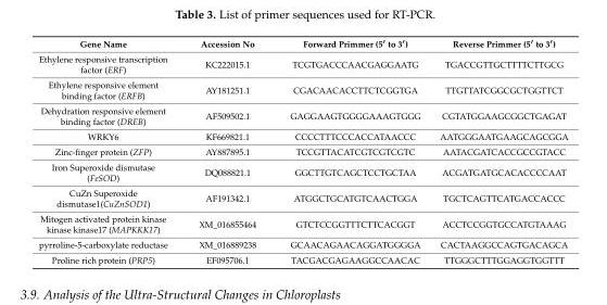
<table><thead><tr><td>Gene Name</td><td>Accession No</td><td>Forward Primmer (5′ to 3′)</td><td>Reverse Primmer (5′ to 3′)</td></tr></thead><tbody><tr><td>Ethylene responsive transcription factor (ERF)</td><td>KC222015.1</td><td>TCGTGACCCAACGAGGAATG</td><td>TGACCGTTGCTTTTCTTGCG</td></tr><tr><td>Ethylene responsive element binding factor (ERFB)</td><td>AY181251.1</td><td>CGACAACACCTTCTCGGTGA</td><td>TTGTTATCGGCGCTGGTTCT</td></tr><tr><td>Dehydration responsive element binding factor (DREB)</td><td>AF509502.1</td><td>GAGGAAGTGGGGAAAGTGGG</td><td>CGTATGGAAGCGGCTGAGAT</td></tr><tr><td>WRKY6</td><td>KF669821.1</td><td>CCCCTTTCCCACCATAACCC</td><td>AATGGGAATGAAGCAGCGGA</td></tr><tr><td>Zinc-finger protein (ZFP)</td><td>AY887895.1</td><td>TCCGTTACATCGTCGTCGTC</td><td>AATACGATCACCGCCGTACC</td></tr><tr><td>Iron Superoxide dismutase (FeSOD)</td><td>DQ088821.1</td><td>GGCTTGTCAGCTCCTGCTAA</td><td>ACGATGATGCACACCCCAAT</td></tr><tr><td>CuZn Superoxide dismutase1(CuZnSOD1)</td><td>AF191342.1</td><td>ATGGCTGCATGTCAACTGGA</td><td>TGCTCAGTTCATGACCACCC</td></tr><tr><td>Mitogen activated protein kinase kinase kinase17 (MAPKKK17)</td><td>XM_016855464</td><td>GTCTCCGGTTTCTTCACGGT</td><td>ACCTCCGGTGCCATGTAAAG</td></tr><tr><td>pyrroline-5-carboxylate reductase</td><td>XM_016889238</td><td>GCAACAGAACAGGATGGGGA</td><td>CACTAAGGCCAGTGACAGCA</td></tr><tr><td>Proline rich protein (PRP5)</td><td>EF095706.1</td><td>TACGACGAGAAGGCCAACAC</td><td>TTGGGCTTTGGAGGTGGTTT</td></tr></tbody></table>